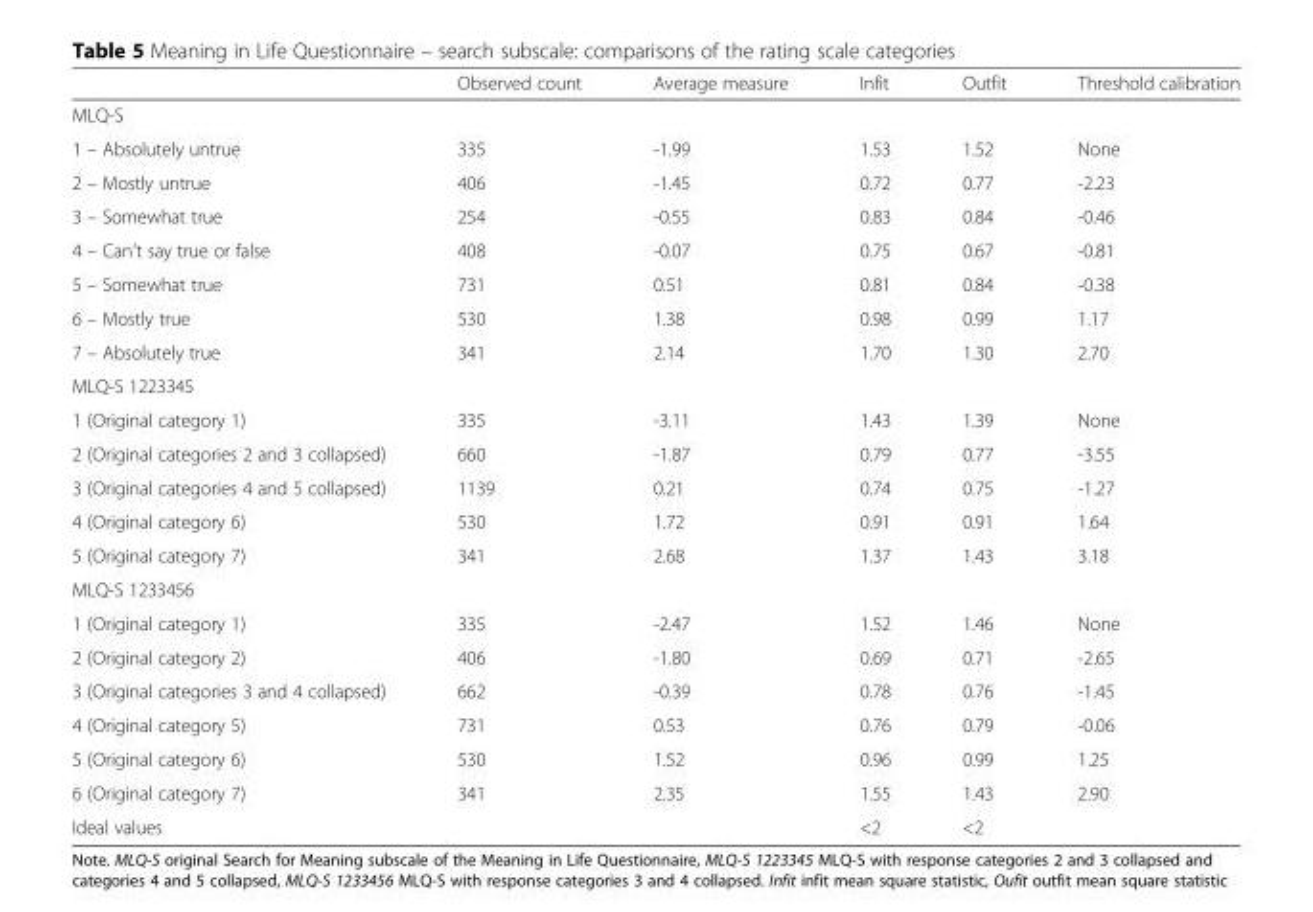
<table><thead><tr><td></td><td>Observed count</td><td>Average measure</td><td>Infit</td><td>Outfit</td><td>Threshold calibration</td></tr></thead><tbody><tr><td colspan="6">MLQ-S</td></tr><tr><td>1 – Absolutely untrue</td><td>335</td><td>-1.99</td><td>1.53</td><td>1.52</td><td>None</td></tr><tr><td>2 – Mostly untrue</td><td>406</td><td>-1.45</td><td>0.72</td><td>0.77</td><td>-2.23</td></tr><tr><td>3 – Somewhat true</td><td>254</td><td>-0.55</td><td>0.83</td><td>0.84</td><td>-0.46</td></tr><tr><td>4 – Can’t say true or false</td><td>408</td><td>-0.07</td><td>0.75</td><td>0.67</td><td>-0.81</td></tr><tr><td>5 – Somewhat true</td><td>731</td><td>0.51</td><td>0.81</td><td>0.84</td><td>-0.38</td></tr><tr><td>6 – Mostly true</td><td>530</td><td>1.38</td><td>0.98</td><td>0.99</td><td>1.17</td></tr><tr><td>7 – Absolutely true</td><td>341</td><td>2.14</td><td>1.70</td><td>1.30</td><td>2.70</td></tr><tr><td colspan="6">MLQ-S 1223345</td></tr><tr><td>1 (Original category 1)</td><td>335</td><td>-3.11</td><td>1.43</td><td>1.39</td><td>None</td></tr><tr><td>2 (Original categories 2 and 3 collapsed)</td><td>660</td><td>-1.87</td><td>0.79</td><td>0.77</td><td>-3.55</td></tr><tr><td>3 (Original categories 4 and 5 collapsed)</td><td>1139</td><td>0.21</td><td>0.74</td><td>0.75</td><td>-1.27</td></tr><tr><td>4 (Original category 6)</td><td>530</td><td>1.72</td><td>0.91</td><td>0.91</td><td>1.64</td></tr><tr><td>5 (Original category 7)</td><td>341</td><td>2.68</td><td>1.37</td><td>1.43</td><td>3.18</td></tr><tr><td colspan="6">MLQ-S 1233456</td></tr><tr><td>1 (Original category 1)</td><td>335</td><td>-2.47</td><td>1.52</td><td>1.46</td><td>None</td></tr><tr><td>2 (Original category 2)</td><td>406</td><td>-1.80</td><td>0.69</td><td>0.71</td><td>-2.65</td></tr><tr><td>3 (Original categories 3 and 4 collapsed)</td><td>662</td><td>-0.39</td><td>0.78</td><td>0.76</td><td>-1.45</td></tr><tr><td>4 (Original category 5)</td><td>731</td><td>0.53</td><td>0.76</td><td>0.79</td><td>-0.06</td></tr><tr><td>5 (Original category 6)</td><td>530</td><td>1.52</td><td>0.96</td><td>0.99</td><td>1.25</td></tr><tr><td>6 (Original category 7)</td><td>341</td><td>2.35</td><td>1.55</td><td>1.43</td><td>2.90</td></tr><tr><td>Ideal values</td><td></td><td></td><td>&lt;2</td><td>&lt;2</td><td></td></tr></tbody></table>